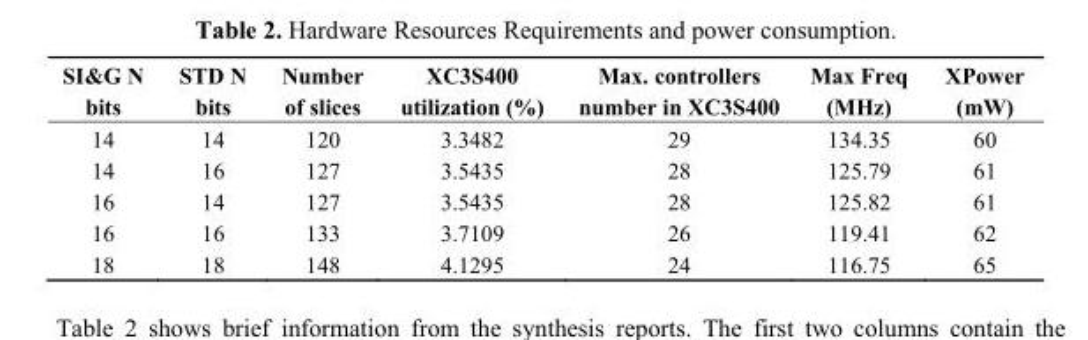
<table><thead><tr><td>SI&amp;G N bits</td><td>STD N bits</td><td>Number of slices</td><td>XC3S400 utilization (%)</td><td>Max. controllers number in XC3S400</td><td>Max Freq (MHz)</td><td>XPower (mW)</td></tr></thead><tbody><tr><td>14</td><td>14</td><td>120</td><td>3.3482</td><td>29</td><td>134.35</td><td>60</td></tr><tr><td>14</td><td>16</td><td>127</td><td>3.5435</td><td>28</td><td>125.79</td><td>61</td></tr><tr><td>16</td><td>14</td><td>127</td><td>3.5435</td><td>28</td><td>125.82</td><td>61</td></tr><tr><td>16</td><td>16</td><td>133</td><td>3.7109</td><td>26</td><td>119.41</td><td>62</td></tr><tr><td>18</td><td>18</td><td>148</td><td>4.1295</td><td>24</td><td>116.75</td><td>65</td></tr></tbody></table>